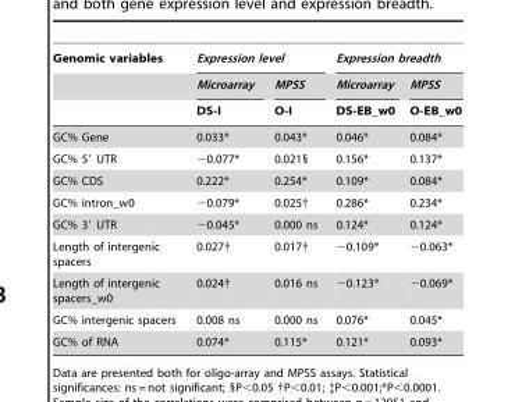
<table><thead><tr><td rowspan="3">Genomic variables</td><td colspan="2">Expression level</td><td colspan="2">Expression breadth</td></tr><tr><td rowspan="2">Microarray DS-I</td><td rowspan="2">MPSS O-I</td><td rowspan="2">Microarray DS-EB_w0</td><td rowspan="2">MPSS O-EB_w0</td></tr><tr></tr></thead><tbody><tr><td>GC% Gene</td><td>0.033*</td><td>0.043*</td><td>0.046*</td><td>0.084*</td></tr><tr><td>GC% 5′ UTR</td><td>−0.077*</td><td>0.021§</td><td>0.156*</td><td>0.137*</td></tr><tr><td>GC% CDS</td><td>0.222*</td><td>0.254*</td><td>0.109*</td><td>0.084*</td></tr><tr><td>GC% intron_w0</td><td>−0.079*</td><td>0.025†</td><td>0.286*</td><td>0.234*</td></tr><tr><td>GC% 3′ UTR</td><td>−0.045*</td><td>0.000 ns</td><td>0.124*</td><td>0.124*</td></tr><tr><td>Length of intergenic spacers</td><td>0.027†</td><td>0.017†</td><td>−0.109*</td><td>−0.063*</td></tr><tr><td>Length of intergenic spacers_w0</td><td>0.024†</td><td>0.016 ns</td><td>−0.123*</td><td>−0.069*</td></tr><tr><td>GC% intergenic spacers</td><td>0.008 ns</td><td>0.000 ns</td><td>0.076*</td><td>0.045*</td></tr><tr><td>GC% of RNA</td><td>0.074*</td><td>0.115*</td><td>0.121*</td><td>0.093*</td></tr></tbody></table>